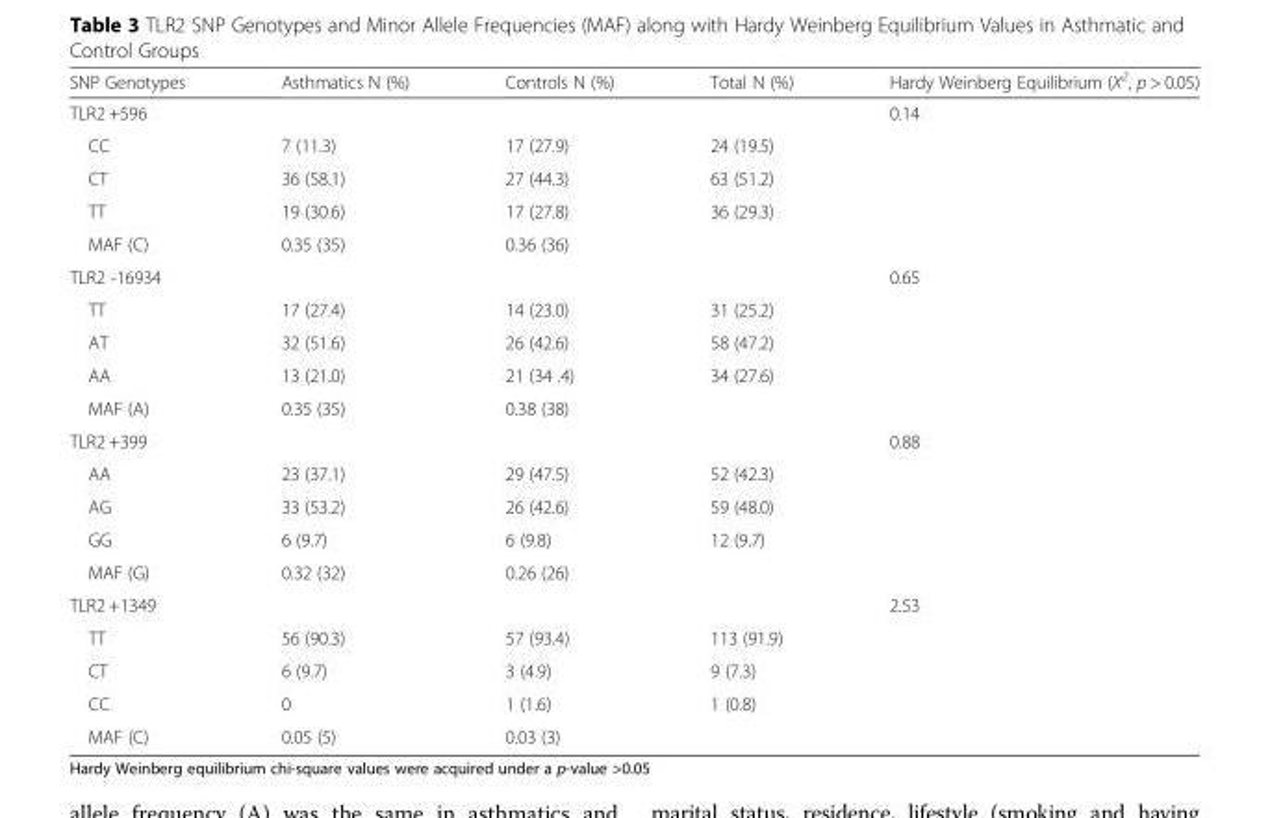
<table><thead><tr><td>SNP Genotypes</td><td>Asthmatics N (%)</td><td>Controls N (%)</td><td>Total N (%)</td><td>Hardy Weinberg Equilibrium (X<sup>2</sup>, p &gt; 0.05)</td></tr></thead><tbody><tr><td colspan="4">TLR2 +596</td><td rowspan="5">0.14</td></tr><tr><td>CC</td><td>7 (11.3)</td><td>17 (27.9)</td><td>24 (19.5)</td></tr><tr><td>CT</td><td>36 (58.1)</td><td>27 (44.3)</td><td>63 (51.2)</td></tr><tr><td>TT</td><td>19 (30.6)</td><td>17 (27.8)</td><td>36 (29.3)</td></tr><tr><td>MAF (C)</td><td>0.35 (35)</td><td>0.36 (36)</td><td></td></tr><tr><td colspan="4">TLR2 -16934</td><td rowspan="5">0.65</td></tr><tr><td>TT</td><td>17 (27.4)</td><td>14 (23.0)</td><td>31 (25.2)</td></tr><tr><td>AT</td><td>32 (51.6)</td><td>26 (42.6)</td><td>58 (47.2)</td></tr><tr><td>AA</td><td>13 (21.0)</td><td>21 (34 .4)</td><td>34 (27.6)</td></tr><tr><td>MAF (A)</td><td>0.35 (35)</td><td>0.38 (38)</td><td></td></tr><tr><td colspan="4">TLR2 +399</td><td rowspan="5">0.88</td></tr><tr><td>AA</td><td>23 (37.1)</td><td>29 (47.5)</td><td>52 (42.3)</td></tr><tr><td>AG</td><td>33 (53.2)</td><td>26 (42.6)</td><td>59 (48.0)</td></tr><tr><td>GG</td><td>6 (9.7)</td><td>6 (9.8)</td><td>12 (9.7)</td></tr><tr><td>MAF (G)</td><td>0.32 (32)</td><td>0.26 (26)</td><td></td></tr><tr><td colspan="4">TLR2 +1349</td><td rowspan="5">2.53</td></tr><tr><td>TT</td><td>56 (90.3)</td><td>57 (93.4)</td><td>113 (91.9)</td></tr><tr><td>CT</td><td>6 (9.7)</td><td>3 (4.9)</td><td>9 (7.3)</td></tr><tr><td>CC</td><td>0</td><td>1 (1.6)</td><td>1 (0.8)</td></tr><tr><td>MAF (C)</td><td>0.05 (5)</td><td>0.03 (3)</td><td></td></tr></tbody></table>